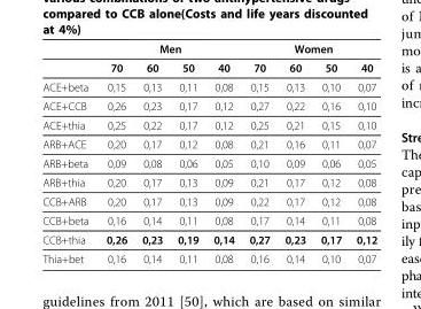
<table><thead><tr><td rowspan="2"></td><td colspan="4">Men</td><td colspan="4">Women</td></tr><tr><td>70</td><td>60</td><td>50</td><td>40</td><td>70</td><td>60</td><td>50</td><td>40</td></tr></thead><tbody><tr><td>ACE+beta</td><td>0,15</td><td>0,13</td><td>0,11</td><td>0,08</td><td>0,15</td><td>0,13</td><td>0,10</td><td>0,07</td></tr><tr><td>ACE+CCB</td><td>0,26</td><td>0,23</td><td>0,17</td><td>0,12</td><td>0,27</td><td>0,22</td><td>0,16</td><td>0,10</td></tr><tr><td>ACE+thia</td><td>0,25</td><td>0,22</td><td>0,17</td><td>0,12</td><td>0,25</td><td>0,21</td><td>0,15</td><td>0,10</td></tr><tr><td>ARB+ACE</td><td>0,20</td><td>0,17</td><td>0,12</td><td>0,08</td><td>0,21</td><td>0,16</td><td>0,11</td><td>0,07</td></tr><tr><td>ARB+beta</td><td>0,09</td><td>0,08</td><td>0,06</td><td>0,05</td><td>0,10</td><td>0,09</td><td>0,06</td><td>0,05</td></tr><tr><td>ARB+thia</td><td>0,20</td><td>0,17</td><td>0,13</td><td>0,09</td><td>0,21</td><td>0,17</td><td>0,12</td><td>0,08</td></tr><tr><td>CCB+ARB</td><td>0,20</td><td>0,17</td><td>0,13</td><td>0,09</td><td>0,22</td><td>0,17</td><td>0,12</td><td>0,08</td></tr><tr><td>CCB+beta</td><td>0,16</td><td>0,14</td><td>0,11</td><td>0,08</td><td>0,17</td><td>0,14</td><td>0,11</td><td>0,08</td></tr><tr><td>CCB+thia</td><td>0,26</td><td>0,23</td><td>0,19</td><td>0,14</td><td>0,27</td><td>0,23</td><td>0,17</td><td>0,12</td></tr><tr><td>Thia+bet</td><td>0,16</td><td>0,14</td><td>0,11</td><td>0,08</td><td>0,16</td><td>0,14</td><td>0,10</td><td>0,07</td></tr></tbody></table>